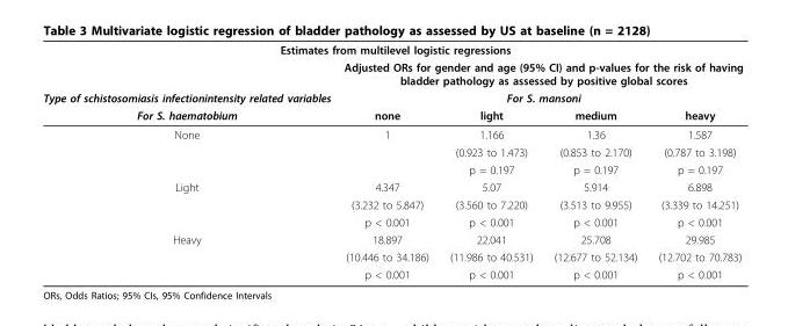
<table><thead><tr><td colspan="5">Estimates from multilevel logistic regressions</td></tr><tr><td rowspan="3">Type of schistosomiasis infectionintensity related variables For S. haematobium</td><td rowspan="2" colspan="4">Adjusted ORs for gender and age (95% CI) and p-values for the risk of having bladder pathology as assessed by positive global scores For S. mansoni</td></tr><tr></tr><tr><td>none</td><td>light</td><td>medium</td><td>heavy</td></tr></thead><tbody><tr><td rowspan="3">None</td><td>1</td><td>1.166</td><td>1.36</td><td>1.587</td></tr><tr><td></td><td>(0.923 to 1.473)</td><td>(0.853 to 2.170)</td><td>(0.787 to 3.198)</td></tr><tr><td></td><td>p = 0.197</td><td>p = 0.197</td><td>p = 0.197</td></tr><tr><td rowspan="3">Light</td><td>4.347</td><td>5.07</td><td>5.914</td><td>6.898</td></tr><tr><td>(3.232 to 5.847)</td><td>(3.560 to 7.220)</td><td>(3.513 to 9.955)</td><td>(3.339 to 14.251)</td></tr><tr><td>p &lt; 0.001</td><td>p &lt; 0.001</td><td>p &lt; 0.001</td><td>p &lt; 0.001</td></tr><tr><td rowspan="3">Heavy</td><td>18.897</td><td>22.041</td><td>25.708</td><td>29.985</td></tr><tr><td>(10.446 to 34.186)</td><td>(11.986 to 40.531)</td><td>(12.677 to 52.134)</td><td>(12.702 to 70.783)</td></tr><tr><td>p &lt; 0.001</td><td>p &lt; 0.001</td><td>p &lt; 0.001</td><td>p &lt; 0.001</td></tr></tbody></table>